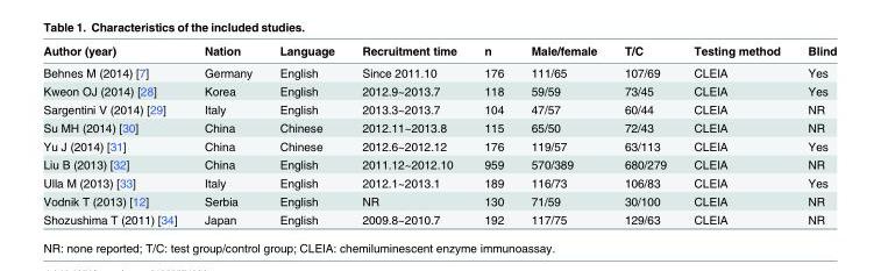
<table><thead><tr><td>Author (year)</td><td>Nation</td><td>Language</td><td>Recruitment time</td><td>n</td><td>Male/female</td><td>T/C</td><td>Testing method</td><td>Blind</td></tr></thead><tbody><tr><td>Behnes M (2014) [7]</td><td>Germany</td><td>English</td><td>Since 2011.10</td><td>176</td><td>111/65</td><td>107/69</td><td>CLEIA</td><td>Yes</td></tr><tr><td>Kweon OJ (2014) [28]</td><td>Korea</td><td>English</td><td>2012.9~2013.7</td><td>118</td><td>59/59</td><td>73/45</td><td>CLEIA</td><td>Yes</td></tr><tr><td>Sargentini V (2014) [29]</td><td>Italy</td><td>English</td><td>2013.3~2013.7</td><td>104</td><td>47/57</td><td>60/44</td><td>CLEIA</td><td>NR</td></tr><tr><td>Su MH (2014) [30]</td><td>China</td><td>Chinese</td><td>2012.11~2013.8</td><td>115</td><td>65/50</td><td>72/43</td><td>CLEIA</td><td>NR</td></tr><tr><td>Yu J (2014) [31]</td><td>China</td><td>Chinese</td><td>2012.6~2012.12</td><td>176</td><td>119/57</td><td>63/113</td><td>CLEIA</td><td>Yes</td></tr><tr><td>Liu B (2013) [32]</td><td>China</td><td>English</td><td>2011.12~2012.10</td><td>959</td><td>570/389</td><td>680/279</td><td>CLEIA</td><td>NR</td></tr><tr><td>Ulla M (2013) [33]</td><td>Italy</td><td>English</td><td>2012.1~2013.1</td><td>189</td><td>116/73</td><td>106/83</td><td>CLEIA</td><td>Yes</td></tr><tr><td>Vodnik T (2013) [12]</td><td>Serbia</td><td>English</td><td>NR</td><td>130</td><td>71/59</td><td>30/100</td><td>CLEIA</td><td>NR</td></tr><tr><td>Shozushima T (2011) [34]</td><td>Japan</td><td>English</td><td>2009.8~2010.7</td><td>192</td><td>117/75</td><td>129/63</td><td>CLEIA</td><td>NR</td></tr></tbody></table>